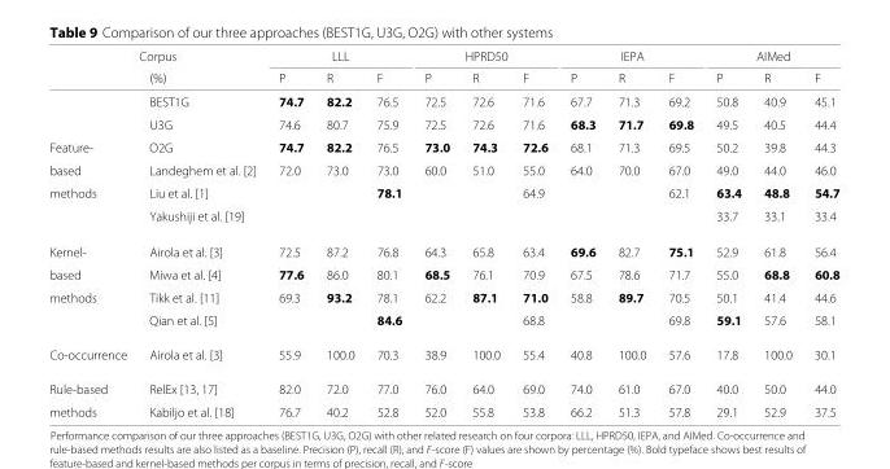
<table><thead><tr><td rowspan="2" colspan="2">Corpus (%)</td><td colspan="3">LLL</td><td colspan="3">HPRD50</td><td colspan="3">IEPA</td><td colspan="3">AIMed</td></tr><tr><td rowspan="2">P 74.7</td><td rowspan="2">R 82.2</td><td rowspan="2">F 76.5</td><td rowspan="2">P 72.5</td><td rowspan="2">R 72.6</td><td rowspan="2">F 71.6</td><td rowspan="2">P 67.7</td><td rowspan="2">R 71.3</td><td rowspan="2">F 69.2</td><td rowspan="2">P 50.8</td><td rowspan="2">R 40.9</td><td rowspan="2">F 45.1</td></tr><tr><td></td><td>BEST1G</td></tr></thead><tbody><tr><td></td><td>U3G</td><td>74.6</td><td>80.7</td><td>75.9</td><td>72.5</td><td>72.6</td><td>71.6</td><td>68.3</td><td>71.7</td><td>69.8</td><td>49.5</td><td>40.5</td><td>44.4</td></tr><tr><td>Feature-</td><td>O2G</td><td>74.7</td><td>82.2</td><td>76.5</td><td>73.0</td><td>74.3</td><td>72.6</td><td>68.1</td><td>71.3</td><td>69.5</td><td>50.2</td><td>39.8</td><td>44.3</td></tr><tr><td>based</td><td>Landeghem et al. [2]</td><td>72.0</td><td>73.0</td><td>73.0</td><td>60.0</td><td>51.0</td><td>55.0</td><td>64.0</td><td>70.0</td><td>67.0</td><td>49.0</td><td>44.0</td><td>46.0</td></tr><tr><td rowspan="2">methods</td><td>Liu et al. [1]</td><td></td><td></td><td>78.1</td><td></td><td></td><td>64.9</td><td></td><td></td><td>62.1</td><td>63.4</td><td>48.8</td><td>54.7</td></tr><tr><td>Yakushiji et al. [19]</td><td></td><td></td><td></td><td></td><td></td><td></td><td></td><td></td><td></td><td>33.7</td><td>33.1</td><td>33.4</td></tr><tr><td>Kernel-</td><td>Airola et al. [3]</td><td>72.5</td><td>87.2</td><td>76.8</td><td>64.3</td><td>65.8</td><td>63.4</td><td>69.6</td><td>82.7</td><td>75.1</td><td>52.9</td><td>61.8</td><td>56.4</td></tr><tr><td>based</td><td>Miwa et al. [4]</td><td>77.6</td><td>86.0</td><td>80.1</td><td>68.5</td><td>76.1</td><td>70.9</td><td>67.5</td><td>78.6</td><td>71.7</td><td>55.0</td><td>68.8</td><td>60.8</td></tr><tr><td rowspan="2">methods</td><td>Tikk et al. [11]</td><td>69.3</td><td>93.2</td><td>78.1</td><td>62.2</td><td>87.1</td><td>71.0</td><td>58.8</td><td>89.7</td><td>70.5</td><td>50.1</td><td>41.4</td><td>44.6</td></tr><tr><td>Qian et al. [5]</td><td></td><td></td><td>84.6</td><td></td><td></td><td>68.8</td><td></td><td></td><td>69.8</td><td>59.1</td><td>57.6</td><td>58.1</td></tr><tr><td>Co-occurrence</td><td>Airola et al. [3]</td><td>55.9</td><td>100.0</td><td>70.3</td><td>38.9</td><td>100.0</td><td>55.4</td><td>40.8</td><td>100.0</td><td>57.6</td><td>17.8</td><td>100.0</td><td>30.1</td></tr><tr><td>Rule-based</td><td>RelEx [13, 17]</td><td>82.0</td><td>72.0</td><td>77.0</td><td>76.0</td><td>64.0</td><td>69.0</td><td>74.0</td><td>61.0</td><td>67.0</td><td>40.0</td><td>50.0</td><td>44.0</td></tr><tr><td>methods</td><td>Kabiljo et al. [18]</td><td>76.7</td><td>40.2</td><td>52.8</td><td>52.0</td><td>55.8</td><td>53.8</td><td>66.2</td><td>51.3</td><td>57.8</td><td>29.1</td><td>52.9</td><td>37.5</td></tr></tbody></table>